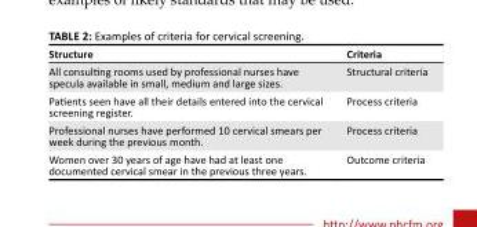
<table><thead><tr><td>Structure</td><td>Criteria</td></tr></thead><tbody><tr><td>All consulting rooms used by professional nurses have specula available in small, medium and large sizes.</td><td>Structural criteria</td></tr><tr><td>Patients seen have all their details entered into the cervical screening register.</td><td>Process criteria</td></tr><tr><td>Professional nurses have performed 10 cervical smears per week during the previous month.</td><td>Process criteria</td></tr><tr><td>Women over 30 years of age have had at least one documented cervical smear in the previous three years.</td><td>Outcome criteria</td></tr></tbody></table>